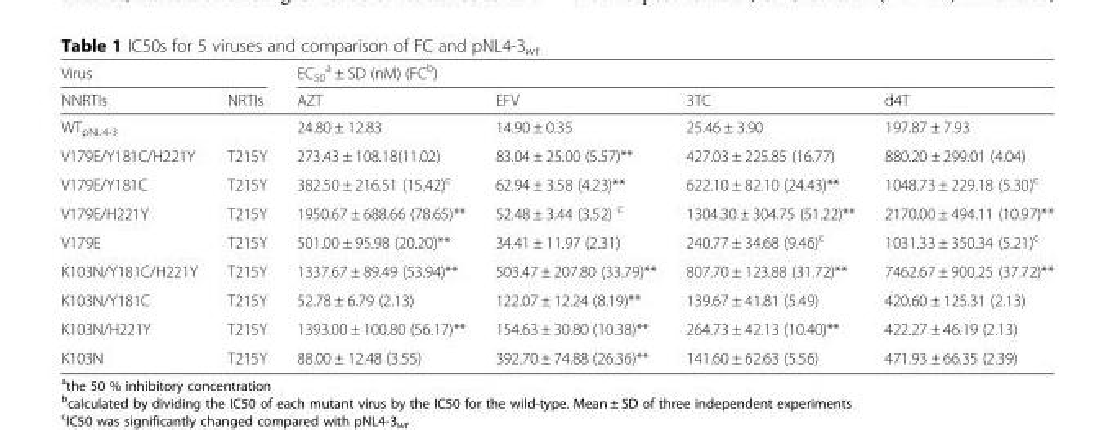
<table><thead><tr><td colspan="2">Virus</td><td colspan="4">EC<sub>50</sub> <sup>a</sup> ± SD (nM) (FC<sup>b</sup>)</td></tr><tr><td>NNRTIs</td><td>NRTIs</td><td>AZT</td><td>EFV</td><td>3TC</td><td>d4T</td></tr></thead><tbody><tr><td colspan="2">WT<sub>pNL4-3</sub></td><td>24.80 ± 12.83</td><td>14.90 ± 0.35</td><td>25.46 ± 3.90</td><td>197.87 ± 7.93</td></tr><tr><td>V179E/Y181C/H221Y</td><td>T215Y</td><td>273.43 ± 108.18(11.02)</td><td>83.04 ± 25.00 (5.57)**</td><td>427.03 ± 225.85 (16.77)</td><td>880.20 ± 299.01 (4.04)</td></tr><tr><td>V179E/Y181C</td><td>T215Y</td><td>382.50 ± 216.51 (15.42)<sup>c</sup></td><td>62.94 ± 3.58 (4.23)**</td><td>622.10 ± 82.10 (24.43)**</td><td>1048.73 ± 229.18 (5.30)<sup>c</sup></td></tr><tr><td>V179E/H221Y</td><td>T215Y</td><td>1950.67 ± 688.66 (78.65)**</td><td>52.48 ± 3.44 (3.52) <sup>c</sup></td><td>1304.30 ± 304.75 (51.22)**</td><td>2170.00 ± 494.11 (10.97)**</td></tr><tr><td>V179E</td><td>T215Y</td><td>501.00 ± 95.98 (20.20)**</td><td>34.41 ± 11.97 (2.31)</td><td>240.77 ± 34.68 (9.46)<sup>c</sup></td><td>1031.33 ± 350.34 (5.21)<sup>c</sup></td></tr><tr><td>K103N/Y181C/H221Y</td><td>T215Y</td><td>1337.67 ± 89.49 (53.94)**</td><td>503.47 ± 207.80 (33.79)**</td><td>807.70 ± 123.88 (31.72)**</td><td>7462.67 ± 900.25 (37.72)**</td></tr><tr><td>K103N/Y181C</td><td>T215Y</td><td>52.78 ± 6.79 (2.13)</td><td>122.07 ± 12.24 (8.19)**</td><td>139.67 ± 41.81 (5.49)</td><td>420.60 ± 125.31 (2.13)</td></tr><tr><td>K103N/H221Y</td><td>T215Y</td><td>1393.00 ± 100.80 (56.17)**</td><td>154.63 ± 30.80 (10.38)**</td><td>264.73 ± 42.13 (10.40)**</td><td>422.27 ± 46.19 (2.13)</td></tr><tr><td>K103N</td><td>T215Y</td><td>88.00 ± 12.48 (3.55)</td><td>392.70 ± 74.88 (26.36)**</td><td>141.60 ± 62.63 (5.56)</td><td>471.93 ± 66.35 (2.39)</td></tr></tbody></table>